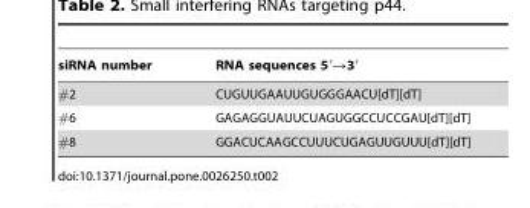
<table><thead><tr><td>siRNA number</td><td>RNA sequences 5′→3′</td></tr></thead><tbody><tr><td>#2</td><td>CUGUUGAAUUGUGGGAACU[dT][dT]</td></tr><tr><td>#6</td><td>GAGAGGUAUUCUAGUGGCCUCCGAU[dT][dT]</td></tr><tr><td>#8</td><td>GGACUCAAGCCUUUCUGAGUUGUUU[dT][dT]</td></tr></tbody></table>